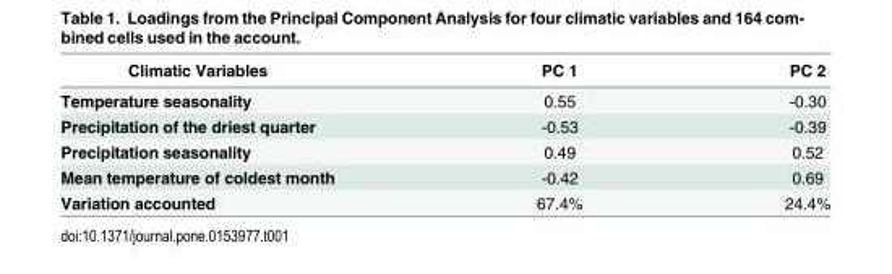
<table><thead><tr><td>Climatic Variables</td><td>PC 1</td><td>PC 2</td></tr></thead><tbody><tr><td>Temperature seasonality</td><td>0.55</td><td>-0.30</td></tr><tr><td>Precipitation of the driest quarter</td><td>-0.53</td><td>-0.39</td></tr><tr><td>Precipitation seasonality</td><td>0.49</td><td>0.52</td></tr><tr><td>Mean temperature of coldest month</td><td>-0.42</td><td>0.69</td></tr><tr><td>Variation accounted</td><td>67.4%</td><td>24.4%</td></tr></tbody></table>